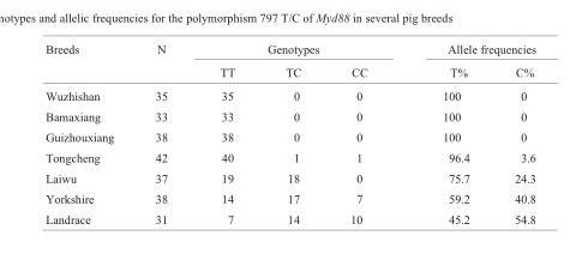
<table><thead><tr><td rowspan="2">Breeds</td><td rowspan="2">N</td><td colspan="3">Genotypes</td><td colspan="2">Allele frequencies</td></tr><tr><td>TT</td><td>TC</td><td>CC</td><td>T%</td><td>C%</td></tr></thead><tbody><tr><td>Wuzhishan</td><td>35</td><td>35</td><td>0</td><td>0</td><td>100</td><td>0</td></tr><tr><td>Bamaxiang</td><td>33</td><td>33</td><td>0</td><td>0</td><td>100</td><td>0</td></tr><tr><td>Guizhouxiang</td><td>38</td><td>38</td><td>0</td><td>0</td><td>100</td><td>0</td></tr><tr><td>Tongcheng</td><td>42</td><td>40</td><td>1</td><td>1</td><td>96.4</td><td>3.6</td></tr><tr><td>Laiwu</td><td>37</td><td>19</td><td>18</td><td>0</td><td>75.7</td><td>24.3</td></tr><tr><td>Yorkshire</td><td>38</td><td>14</td><td>17</td><td>7</td><td>59.2</td><td>40.8</td></tr><tr><td>Landrace</td><td>31</td><td>7</td><td>14</td><td>10</td><td>45.2</td><td>54.8</td></tr></tbody></table>